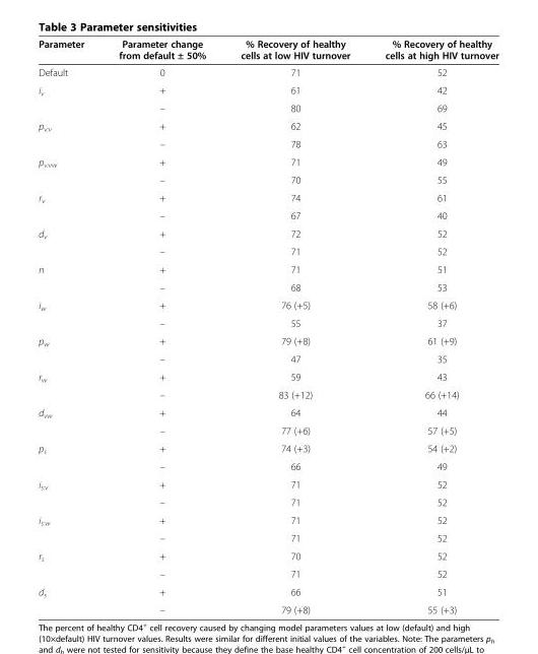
<table><thead><tr><td>Parameter</td><td>Parameter change from default ± 50%</td><td>% Recovery of healthy cells at low HIV turnover</td><td>% Recovery of healthy cells at high HIV turnover</td></tr></thead><tbody><tr><td>Default</td><td>0</td><td>71</td><td>52</td></tr><tr><td rowspan="2">i<sub>v</sub></td><td>+</td><td>61</td><td>42</td></tr><tr><td>–</td><td>80</td><td>69</td></tr><tr><td rowspan="2">p<sub>v:v</sub></td><td>+</td><td>62</td><td>45</td></tr><tr><td>–</td><td>78</td><td>63</td></tr><tr><td rowspan="2">p<sub>v:vw</sub></td><td>+</td><td>71</td><td>49</td></tr><tr><td>–</td><td>70</td><td>55</td></tr><tr><td rowspan="2">r<sub>v</sub></td><td>+</td><td>74</td><td>61</td></tr><tr><td>–</td><td>67</td><td>40</td></tr><tr><td rowspan="2">d<sub>v</sub></td><td>+</td><td>72</td><td>52</td></tr><tr><td>–</td><td>71</td><td>52</td></tr><tr><td rowspan="2">n</td><td>+</td><td>71</td><td>51</td></tr><tr><td>–</td><td>68</td><td>53</td></tr><tr><td rowspan="2">i<sub>w</sub></td><td>+</td><td>76 (+5)</td><td>58 (+6)</td></tr><tr><td>–</td><td>55</td><td>37</td></tr><tr><td rowspan="2">p<sub>w</sub></td><td>+</td><td>79 (+8)</td><td>61 (+9)</td></tr><tr><td>–</td><td>47</td><td>35</td></tr><tr><td rowspan="2">r<sub>w</sub></td><td>+</td><td>59</td><td>43</td></tr><tr><td>–</td><td>83 (+12)</td><td>66 (+14)</td></tr><tr><td rowspan="2">d<sub>vw</sub></td><td>+</td><td>64</td><td>44</td></tr><tr><td>–</td><td>77 (+6)</td><td>57 (+5)</td></tr><tr><td rowspan="2">p<sub>s</sub></td><td>+</td><td>74 (+3)</td><td>54 (+2)</td></tr><tr><td>–</td><td>66</td><td>49</td></tr><tr><td rowspan="2">i<sub>s:v</sub></td><td>+</td><td>71</td><td>52</td></tr><tr><td>–</td><td>71</td><td>52</td></tr><tr><td rowspan="2">i<sub>s:w</sub></td><td>+</td><td>71</td><td>52</td></tr><tr><td>–</td><td>71</td><td>52</td></tr><tr><td rowspan="2">r<sub>s</sub></td><td>+</td><td>70</td><td>52</td></tr><tr><td>–</td><td>71</td><td>52</td></tr><tr><td rowspan="2">d<sub>s</sub></td><td>+</td><td>66</td><td>51</td></tr><tr><td>–</td><td>79 (+8)</td><td>55 (+3)</td></tr></tbody></table>